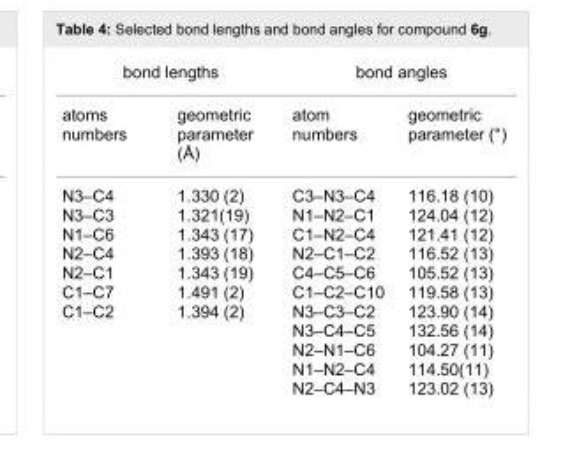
<table><tbody><tr><td colspan="2">bond lengths</td><td colspan="2">bond angles</td></tr><tr><td>atoms numbers</td><td>geometric parameter (Å)</td><td>atom numbers</td><td>geometric parameter (°)</td></tr><tr><td>N3–C4 N3–C3 N1–C6 N2–C4 N2–C1 C1–C7 C1–C2</td><td>1.330 (2) 1.321(19) 1.343 (17) 1.393 (18) 1.343 (19) 1.491 (2) 1.394 (2)</td><td>C3–N3–C4 N1–N2–C1 C1–N2–C4 N2–C1–C2 C4–C5–C6 C1–C2–C10 N3–C3–C2 N3–C4–C5 N2–N1–C6 N1–N2–C4 N2–C4–N3</td><td>116.18 (10) 124.04 (12) 121.41 (12) 116.52 (13) 105.52 (13) 119.58 (13) 123.90 (14) 132.56 (14) 104.27 (11) 114.50(11) 123.02 (13)</td></tr></tbody></table>